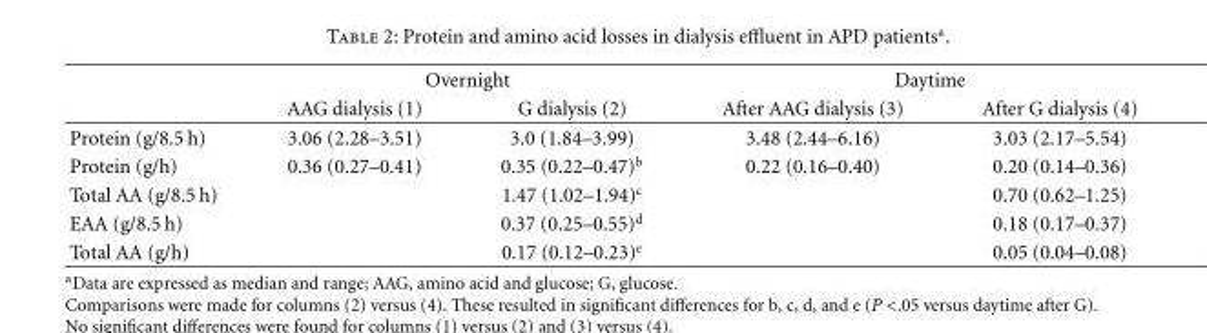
<table><thead><tr><td rowspan="2"></td><td colspan="2">Overnight</td><td colspan="2">Daytime</td></tr><tr><td>AAG dialysis (1)</td><td>G dialysis (2)</td><td>After AAG dialysis (3)</td><td>After G dialysis (4)</td></tr></thead><tbody><tr><td>Protein (g/8.5 h)</td><td>3.06 (2.28–3.51)</td><td>3.0 (1.84–3.99)</td><td>3.48 (2.44–6.16)</td><td>3.03 (2.17–5.54)</td></tr><tr><td>Protein (g/h)</td><td>0.36 (0.27–0.41)</td><td>0.35 (0.22–0.47)<sup>b</sup></td><td>0.22 (0.16–0.40)</td><td>0.20 (0.14–0.36)</td></tr><tr><td>Total AA (g/8.5 h)</td><td></td><td>1.47 (1.02–1.94)<sup>c</sup></td><td></td><td>0.70 (0.62–1.25)</td></tr><tr><td>EAA (g/8.5 h)</td><td></td><td>0.37 (0.25–0.55)<sup>d</sup></td><td></td><td>0.18 (0.17–0.37)</td></tr><tr><td>Total AA (g/h)</td><td></td><td>0.17 (0.12–0.23)<sup>e</sup></td><td></td><td>0.05 (0.04–0.08)</td></tr></tbody></table>